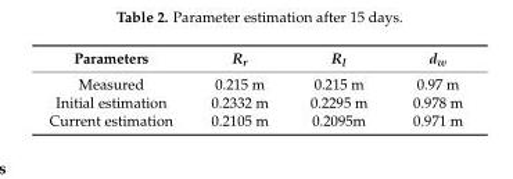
<table><thead><tr><td>Parameters</td><td>R<sub>r</sub></td><td>R<sub>l</sub></td><td>d<sub>w</sub></td></tr></thead><tbody><tr><td>Measured</td><td>0.215 m</td><td>0.215 m</td><td>0.97 m</td></tr><tr><td>Initial estimation</td><td>0.2332 m</td><td>0.2295 m</td><td>0.978 m</td></tr><tr><td>Current estimation</td><td>0.2105 m</td><td>0.2095m</td><td>0.971 m</td></tr></tbody></table>